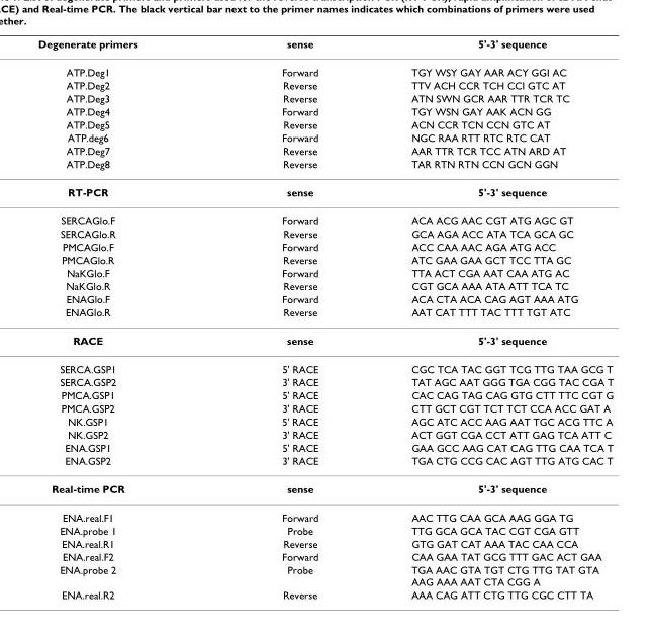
<table><thead><tr><td>Degenerate primers</td><td>sense</td><td>5&#x27;-3&#x27; sequence</td></tr></thead><tbody><tr><td>ATP.Deg1</td><td>Forward</td><td>TGY WSY GAY AAR ACY GGI AC</td></tr><tr><td>ATP.Deg2</td><td>Reverse</td><td>TTV ACH CCR TCH CCI GTC AT</td></tr><tr><td>ATP.Deg3</td><td>Reverse</td><td>ATN SWN GCR AAR TTR TCR TC</td></tr><tr><td>ATP.Deg4</td><td>Forward</td><td>TGY WSN GAY AAK ACN GG</td></tr><tr><td>ATP.Deg5</td><td>Reverse</td><td>ACN CCR TCN CCN GTC AT</td></tr><tr><td>ATP.deg6</td><td>Forward</td><td>NGC RAA RTT RTC RTC CAT</td></tr><tr><td>ATP.Deg7</td><td>Reverse</td><td>AAR TTR TCR TCC ATN ARD AT</td></tr><tr><td>ATP.Deg8</td><td>Reverse</td><td>TAR RTN RTN CCN GCN GGN</td></tr><tr><td>RT-PCR</td><td>sense</td><td>5&#x27;-3&#x27; sequence</td></tr><tr><td>SERCAGlo.F</td><td>Forward</td><td>ACA ACG AAC CGT ATG AGC GT</td></tr><tr><td>SERCAGlo.R</td><td>Reverse</td><td>GCA AGA ACC ATA TCA GCA GC</td></tr><tr><td>PMCAGlo.F</td><td>Forward</td><td>ACC CAA AAC AGA ATG ACC</td></tr><tr><td>PMCAGlo.R</td><td>Reverse</td><td>ATC GAA GAA GCT TCC TTA GC</td></tr><tr><td>NaKGlo.F</td><td>Forward</td><td>TTA ACT CGA AAT CAA ATG AC</td></tr><tr><td>NaKGlo.R</td><td>Reverse</td><td>CGT GCA AAA ATA ATT TCA TC</td></tr><tr><td>ENAGlo.F</td><td>Forward</td><td>ACA CTA ACA CAG AGT AAA ATG</td></tr><tr><td>ENAGlo.R</td><td>Reverse</td><td>AAT CAT TTT TAC TTT TGT ATC</td></tr><tr><td>RACE</td><td>sense</td><td>5&#x27;-3&#x27; sequence</td></tr><tr><td>SERCA.GSP1</td><td>5&#x27; RACE</td><td>CGC TCA TAC GGT TCG TTG TAA GCG T</td></tr><tr><td>SERCA.GSP2</td><td>3&#x27; RACE</td><td>TAT AGC AAT GGG TGA CGG TAC CGA T</td></tr><tr><td>PMCA.GSP1</td><td>5&#x27; RACE</td><td>CAC CAG TAG CAG GTG CTT TTC CGT G</td></tr><tr><td>PMCA.GSP2</td><td>3&#x27; RACE</td><td>CTT GCT CGT TCT TCT CCA ACC GAT A</td></tr><tr><td>NK.GSP1</td><td>5&#x27; RACE</td><td>AGC ATC ACC AAG AAT TGC ACG TTC A</td></tr><tr><td>NK.GSP2</td><td>3&#x27; RACE</td><td>ACT GGT CGA CCT ATT GAG TCA ATT C</td></tr><tr><td>ENA.GSP1</td><td>5&#x27; RACE</td><td>GAA GCC AAG CAT CAG TTG CAA TCA T</td></tr><tr><td>ENA.GSP2</td><td>3&#x27; RACE</td><td>TGA CTG CCG CAC AGT TTG ATG CAC T</td></tr><tr><td>Real-time PCR</td><td>sense</td><td>5&#x27;-3&#x27; sequence</td></tr><tr><td>ENA.real.F1</td><td>Forward</td><td>AAC TTG CAA GCA AAG GGA TG</td></tr><tr><td>ENA.probe 1</td><td>Probe</td><td>TTG GCA GCA TAC CGT CGA GTT</td></tr><tr><td>ENA.real.R1</td><td>Reverse</td><td>GTG GAT CAT AAA TAC CAA CCA</td></tr><tr><td>ENA.real.F2</td><td>Forward</td><td>CAA GAA TAT GCG TTT GAC ACT GAA</td></tr><tr><td>ENA.probe 2</td><td>Probe</td><td>TGA AAC GTA TGT CTG TTG TAT GTA AAG AAA AAT CTA CGG A</td></tr><tr><td>ENA.real.R2</td><td>Reverse</td><td>AAA CAG ATT CTG TTG CGC CTT TA</td></tr></tbody></table>